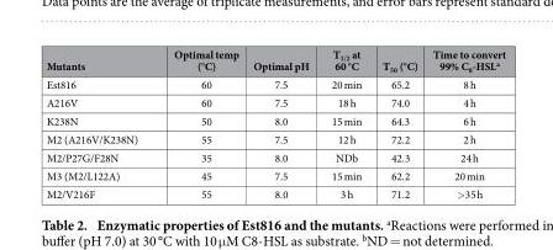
<table><thead><tr><td>Mutants</td><td>Optimal temp (°C)</td><td>Optimal pH</td><td>T<sub>1/2</sub> at 60 °C</td><td>T<sub>50</sub> (°C)</td><td>Time to convert 99% C<sub>8</sub>-HSL<sup>a</sup></td></tr></thead><tbody><tr><td>Est816</td><td>60</td><td>7.5</td><td>20 min</td><td>65.2</td><td>8 h</td></tr><tr><td>A216V</td><td>60</td><td>7.5</td><td>18 h</td><td>74.0</td><td>4 h</td></tr><tr><td>K238N</td><td>50</td><td>8.0</td><td>15 min</td><td>64.3</td><td>6 h</td></tr><tr><td>M2 (A216V/K238N)</td><td>55</td><td>7.5</td><td>12 h</td><td>72.2</td><td>2 h</td></tr><tr><td>M2/P27G/F28N</td><td>35</td><td>8.0</td><td>NDb</td><td>42.3</td><td>24 h</td></tr><tr><td>M3 (M2/L122A)</td><td>45</td><td>7.5</td><td>15 min</td><td>62.2</td><td>20 min</td></tr><tr><td>M2/V216F</td><td>55</td><td>8.0</td><td>3 h</td><td>71.2</td><td>&gt; 35 h</td></tr></tbody></table>